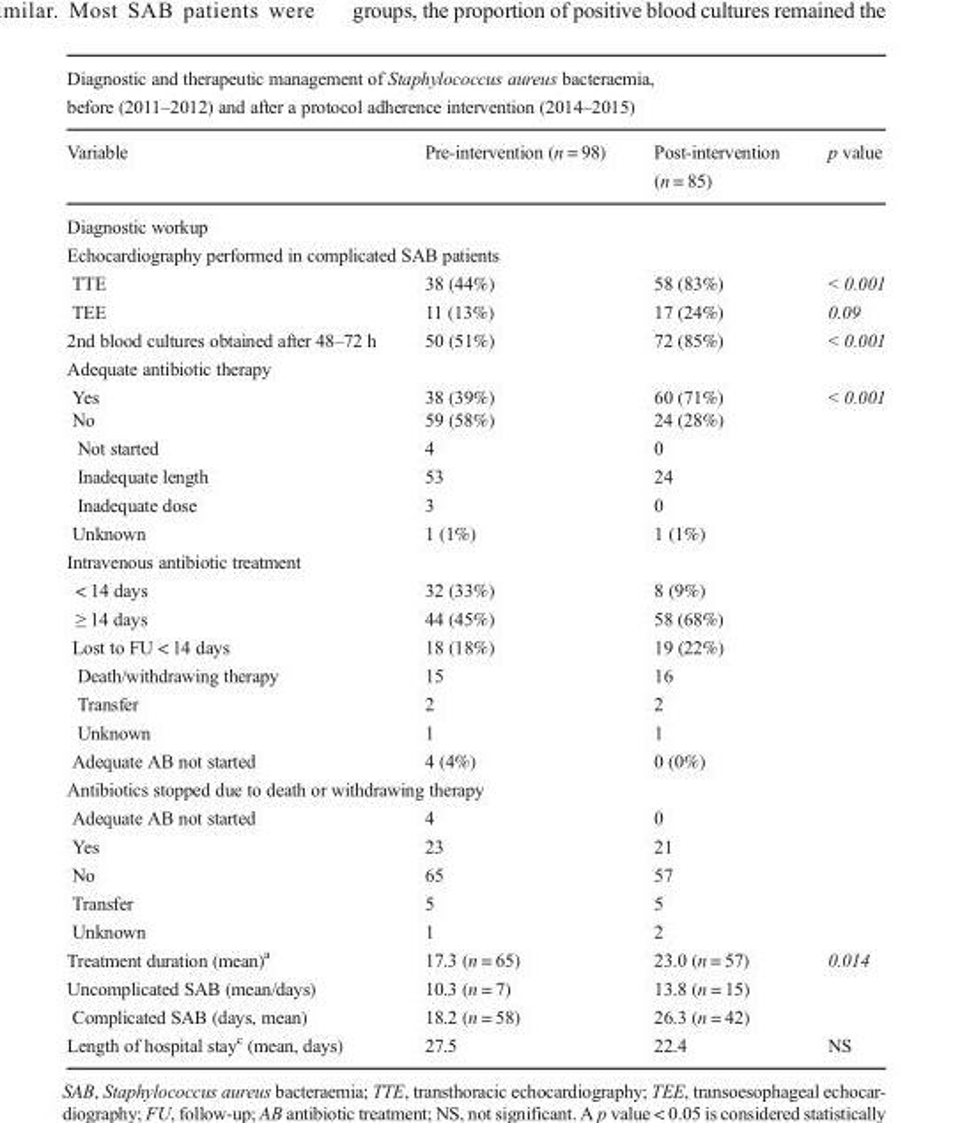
<table><thead><tr><td colspan="4">Diagnostic and therapeutic management of Staphylococcus aureus bacteraemia, before (2011–2012) and after a protocol adherence intervention (2014–2015)</td></tr><tr><td>Variable</td><td>Pre-intervention (n = 98)</td><td>Post-intervention (n = 85)</td><td>p value</td></tr></thead><tbody><tr><td colspan="4">Diagnostic workup</td></tr><tr><td colspan="4">Echocardiography performed in complicated SAB patients</td></tr><tr><td>TTE</td><td>38 (44%)</td><td>58 (83%)</td><td>&lt; 0.001</td></tr><tr><td>TEE</td><td>11 (13%)</td><td>17 (24%)</td><td>0.09</td></tr><tr><td>2nd blood cultures obtained after 48–72 h</td><td>50 (51%)</td><td>72 (85%)</td><td>&lt; 0.001</td></tr><tr><td colspan="4">Adequate antibiotic therapy</td></tr><tr><td>Yes</td><td>38 (39%)</td><td>60 (71%)</td><td rowspan="2">&lt; 0.001</td></tr><tr><td>No</td><td>59 (58%)</td><td>24 (28%)</td></tr><tr><td>Not started</td><td>4</td><td>0</td><td></td></tr><tr><td>Inadequate length</td><td>53</td><td>24</td><td></td></tr><tr><td>Inadequate dose</td><td>3</td><td>0</td><td></td></tr><tr><td>Unknown</td><td>1 (1%)</td><td>1 (1%)</td><td></td></tr><tr><td colspan="4">Intravenous antibiotic treatment</td></tr><tr><td>&lt; 14 days</td><td>32 (33%)</td><td>8 (9%)</td><td></td></tr><tr><td>≥ 14 days</td><td>44 (45%)</td><td>58 (68%)</td><td></td></tr><tr><td>Lost to FU &lt; 14 days</td><td>18 (18%)</td><td>19 (22%)</td><td></td></tr><tr><td>Death/withdrawing therapy</td><td>15</td><td>16</td><td></td></tr><tr><td>Transfer</td><td>2</td><td>2</td><td></td></tr><tr><td>Unknown</td><td>1</td><td>1</td><td></td></tr><tr><td>Adequate AB not started</td><td>4 (4%)</td><td>0 (0%)</td><td></td></tr><tr><td colspan="4">Antibiotics stopped due to death or withdrawing therapy</td></tr><tr><td>Adequate AB not started</td><td>4</td><td>0</td><td></td></tr><tr><td>Yes</td><td>23</td><td>21</td><td></td></tr><tr><td>No</td><td>65</td><td>57</td><td></td></tr><tr><td>Transfer</td><td>5</td><td>5</td><td></td></tr><tr><td>Unknown</td><td>1</td><td>2</td><td></td></tr><tr><td>Treatment duration (mean)<sup>a</sup></td><td>17.3 (n = 65)</td><td>23.0 (n = 57)</td><td>0.014</td></tr><tr><td>Uncomplicated SAB (mean/days)</td><td>10.3 (n = 7)</td><td>13.8 (n = 15)</td><td></td></tr><tr><td>Complicated SAB (days, mean)</td><td>18.2 (n = 58)</td><td>26.3 (n = 42)</td><td></td></tr><tr><td>Length of hospital stay<sup>c</sup> (mean, days)</td><td>27.5</td><td>22.4</td><td>NS</td></tr></tbody></table>